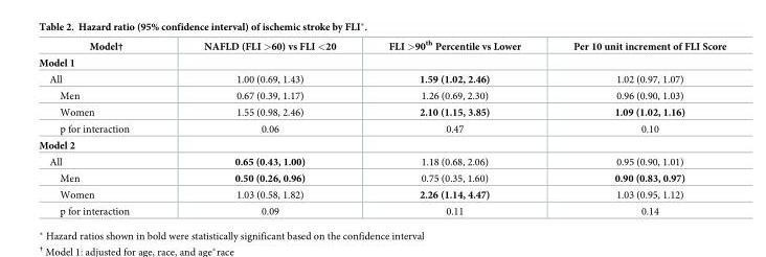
<table><thead><tr><td>Model†</td><td>NAFLD (FLI &gt;60) vs FLI &lt;20</td><td>FLI &gt;90<sup>th</sup> Percentile vs Lower</td><td>Per 10 unit increment of FLI Score</td></tr></thead><tbody><tr><td colspan="4">Model 1</td></tr><tr><td>All</td><td>1.00 (0.69, 1.43)</td><td>1.59 (1.02, 2.46)</td><td>1.02 (0.97, 1.07)</td></tr><tr><td>Men</td><td>0.67 (0.39, 1.17)</td><td>1.26 (0.69, 2.30)</td><td>0.96 (0.90, 1.03)</td></tr><tr><td>Women</td><td>1.55 (0.98, 2.46)</td><td>2.10 (1.15, 3.85)</td><td>1.09 (1.02, 1.16)</td></tr><tr><td>p for interaction</td><td>0.06</td><td>0.47</td><td>0.10</td></tr><tr><td colspan="4">Model 2</td></tr><tr><td>All</td><td>0.65 (0.43, 1.00)</td><td>1.18 (0.68, 2.06)</td><td>0.95 (0.90, 1.01)</td></tr><tr><td>Men</td><td>0.50 (0.26, 0.96)</td><td>0.75 (0.35, 1.60)</td><td>0.90 (0.83, 0.97)</td></tr><tr><td>Women</td><td>1.03 (0.58, 1.82)</td><td>2.26 (1.14, 4.47)</td><td>1.03 (0.95, 1.12)</td></tr><tr><td>p for interaction</td><td>0.09</td><td>0.11</td><td>0.14</td></tr></tbody></table>